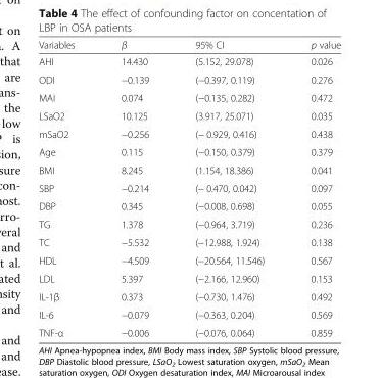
<table><thead><tr><td>Variables</td><td>β</td><td>95% CI</td><td>p value</td></tr></thead><tbody><tr><td>AHI</td><td>14.430</td><td>(5.152, 29.078)</td><td>0.026</td></tr><tr><td>ODI</td><td>−0.139</td><td>(−0.397, 0.119)</td><td>0.276</td></tr><tr><td>MAI</td><td>0.074</td><td>(−0.135, 0.282)</td><td>0.472</td></tr><tr><td>LSaO2</td><td>10.125</td><td>(3.917, 25.071)</td><td>0.035</td></tr><tr><td>mSaO2</td><td>−0.256</td><td>(− 0.929, 0.416)</td><td>0.438</td></tr><tr><td>Age</td><td>0.115</td><td>(−0.150, 0.379)</td><td>0.379</td></tr><tr><td>BMI</td><td>8.245</td><td>(1.154, 18.386)</td><td>0.041</td></tr><tr><td>SBP</td><td>−0.214</td><td>(− 0.470, 0.042)</td><td>0.097</td></tr><tr><td>DBP</td><td>0.345</td><td>(−0.008, 0.698)</td><td>0.055</td></tr><tr><td>TG</td><td>1.378</td><td>(−0.964, 3.719)</td><td>0.236</td></tr><tr><td>TC</td><td>−5.532</td><td>(−12.988, 1.924)</td><td>0.138</td></tr><tr><td>HDL</td><td>−4.509</td><td>(−20.564, 11.546)</td><td>0.567</td></tr><tr><td>LDL</td><td>5.397</td><td>(−2.166, 12.960)</td><td>0.153</td></tr><tr><td>IL-1β</td><td>0.373</td><td>(−0.730, 1.476)</td><td>0.492</td></tr><tr><td>IL-6</td><td>−0.079</td><td>(−0.363, 0.204)</td><td>0.569</td></tr><tr><td>TNF-α</td><td>−0.006</td><td>(−0.076, 0.064)</td><td>0.859</td></tr></tbody></table>